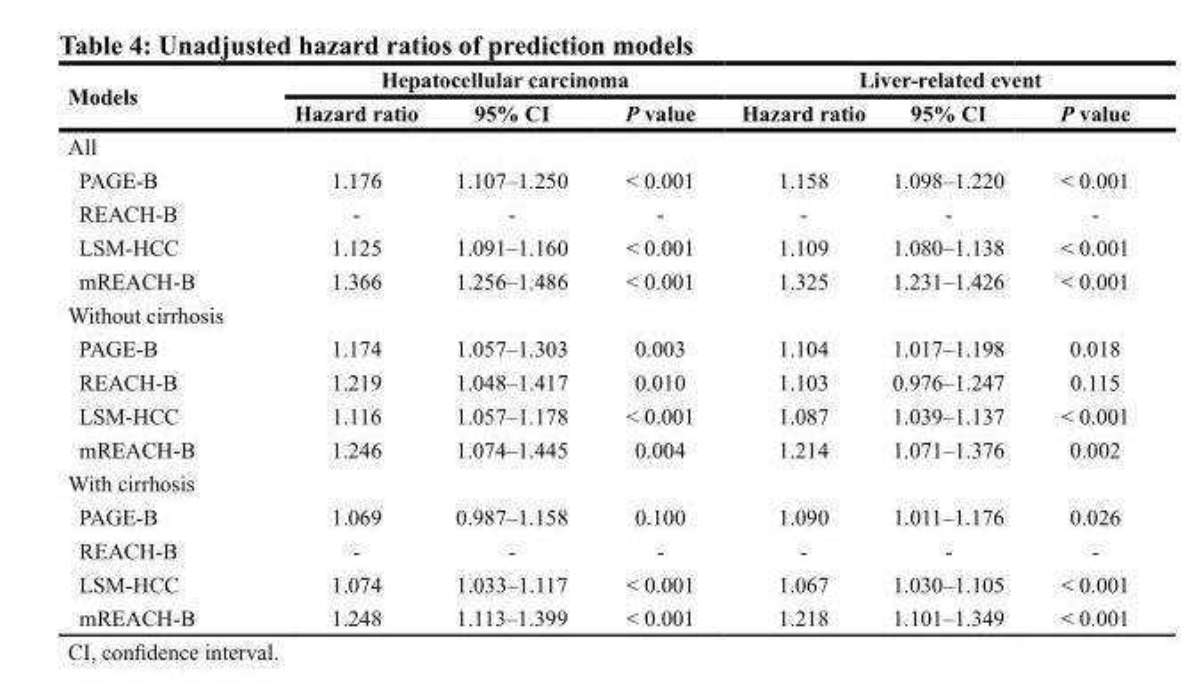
<table><thead><tr><td rowspan="2">Models</td><td colspan="3">Hepatocellular carcinoma</td><td colspan="3">Liver-related event</td></tr><tr><td>Hazard ratio</td><td>95% CI</td><td>P value</td><td>Hazard ratio</td><td>95% CI</td><td>P value</td></tr></thead><tbody><tr><td colspan="7">All</td></tr><tr><td>PAGE-B</td><td>1.176</td><td>1.107–1.250</td><td>&lt; 0.001</td><td>1.158</td><td>1.098–1.220</td><td>&lt; 0.001</td></tr><tr><td>REACH-B</td><td>-</td><td>-</td><td>-</td><td>-</td><td>-</td><td>-</td></tr><tr><td>LSM-HCC</td><td>1.125</td><td>1.091–1.160</td><td>&lt; 0.001</td><td>1.109</td><td>1.080–1.138</td><td>&lt; 0.001</td></tr><tr><td>mREACH-B</td><td>1.366</td><td>1.256–1.486</td><td>&lt; 0.001</td><td>1.325</td><td>1.231–1.426</td><td>&lt; 0.001</td></tr><tr><td colspan="7">Without cirrhosis</td></tr><tr><td>PAGE-B</td><td>1.174</td><td>1.057–1.303</td><td>0.003</td><td>1.104</td><td>1.017–1.198</td><td>0.018</td></tr><tr><td>REACH-B</td><td>1.219</td><td>1.048–1.417</td><td>0.010</td><td>1.103</td><td>0.976–1.247</td><td>0.115</td></tr><tr><td>LSM-HCC</td><td>1.116</td><td>1.057–1.178</td><td>&lt; 0.001</td><td>1.087</td><td>1.039–1.137</td><td>&lt; 0.001</td></tr><tr><td>mREACH-B</td><td>1.246</td><td>1.074–1.445</td><td>0.004</td><td>1.214</td><td>1.071–1.376</td><td>0.002</td></tr><tr><td colspan="7">With cirrhosis</td></tr><tr><td>PAGE-B</td><td>1.069</td><td>0.987–1.158</td><td>0.100</td><td>1.090</td><td>1.011–1.176</td><td>0.026</td></tr><tr><td>REACH-B</td><td>-</td><td>-</td><td>-</td><td>-</td><td>-</td><td>-</td></tr><tr><td>LSM-HCC</td><td>1.074</td><td>1.033–1.117</td><td>&lt; 0.001</td><td>1.067</td><td>1.030–1.105</td><td>&lt; 0.001</td></tr><tr><td>mREACH-B</td><td>1.248</td><td>1.113–1.399</td><td>&lt; 0.001</td><td>1.218</td><td>1.101–1.349</td><td>&lt; 0.001</td></tr></tbody></table>